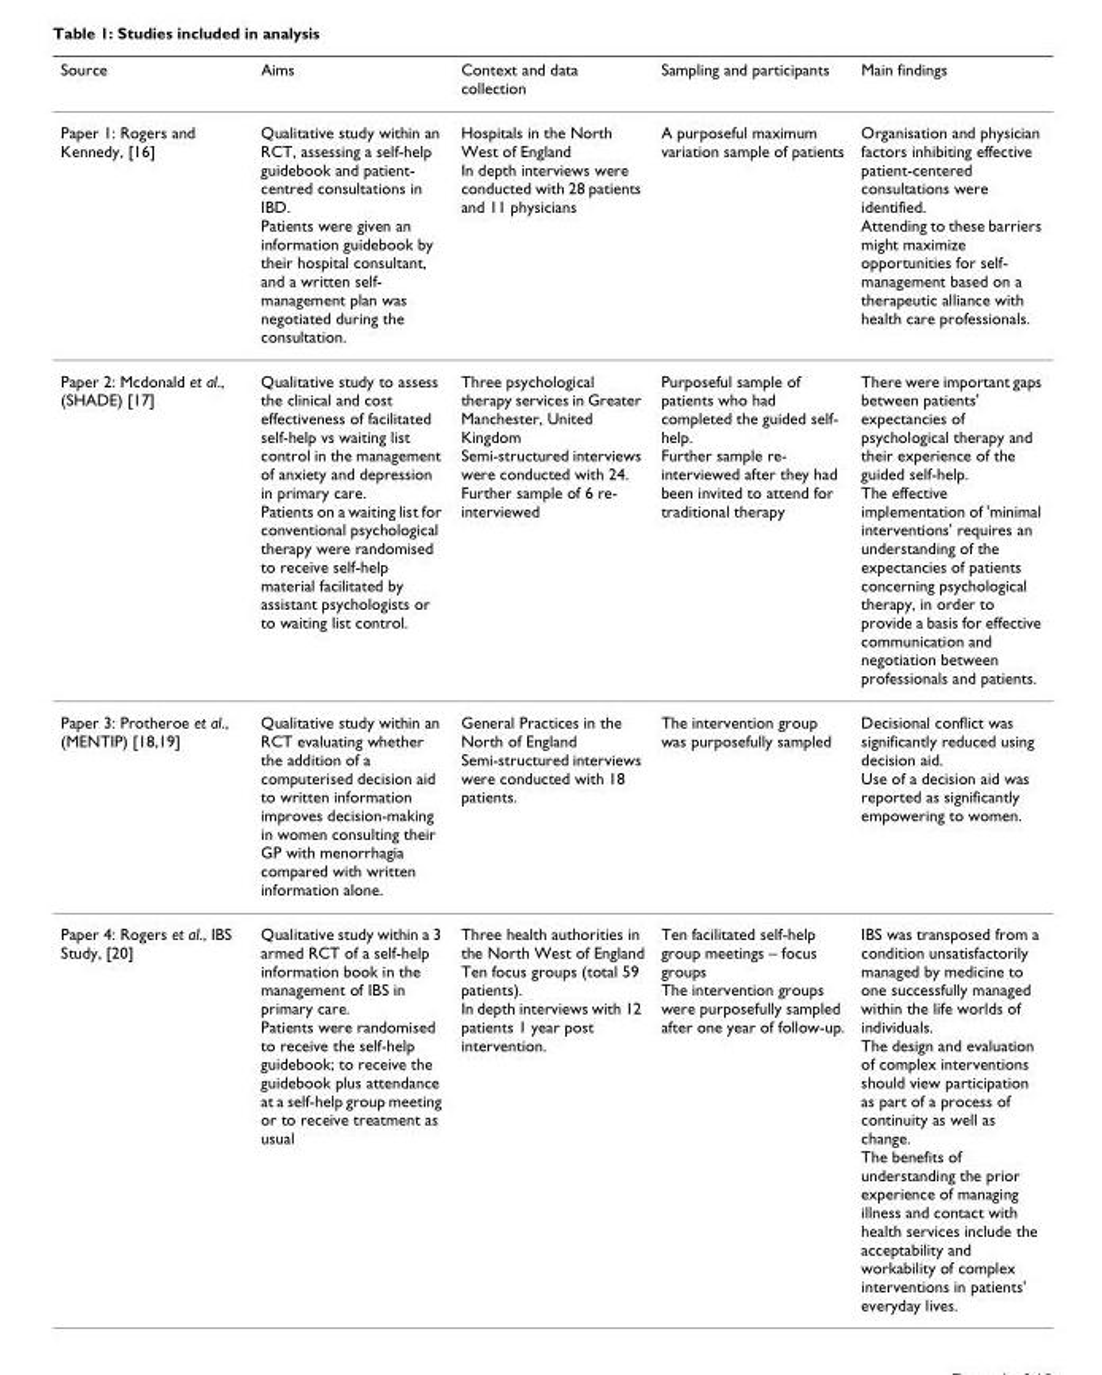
<table><thead><tr><td>Source</td><td>Aims</td><td>Context and data collection</td><td>Sampling and participants</td><td>Main findings</td></tr></thead><tbody><tr><td>Paper 1: Rogers and Kennedy, [16]</td><td>Qualitative study within an RCT, assessing a self-help guidebook and patient- centred consultations in IBD. Patients were given an information guidebook by their hospital consultant, and a written self- management plan was negotiated during the consultation.</td><td>Hospitals in the North West of England In depth interviews were conducted with 28 patients and 11 physicians</td><td>A purposeful maximum variation sample of patients</td><td>Organisation and physician factors inhibiting effective patient-centered consultations were identified. Attending to these barriers might maximize opportunities for self- management based on a therapeutic alliance with health care professionals.</td></tr><tr><td>Paper 2: Mcdonald et al., (SHADE) [17]</td><td>Qualitative study to assess the clinical and cost effectiveness of facilitated self-help vs waiting list control in the management of anxiety and depression in primary care. Patients on a waiting list for conventional psychological therapy were randomised to receive self-help material facilitated by assistant psychologists or to waiting list control.</td><td>Three psychological therapy services in Greater Manchester, United Kingdom Semi-structured interviews were conducted with 24. Further sample of 6 re- interviewed</td><td>Purposeful sample of patients who had completed the guided self- help. Further sample re- interviewed after they had been invited to attend for traditional therapy</td><td>There were important gaps between patients&#x27; expectancies of psychological therapy and their experience of the guided self-help. The effective implementation of &#x27;minimal interventions&#x27; requires an understanding of the expectancies of patients concerning psychological therapy, in order to provide a basis for effective communication and negotiation between professionals and patients.</td></tr><tr><td>Paper 3: Protheroe et al., (MENTIP) [18,19]</td><td>Qualitative study within an RCT evaluating whether the addition of a computerised decision aid to written information improves decision-making in women consulting their GP with menorrhagia compared with written information alone.</td><td>General Practices in the North of England Semi-structured interviews were conducted with 18 patients.</td><td>The intervention group was purposefully sampled</td><td>Decisional conflict was significantly reduced using decision aid. Use of a decision aid was reported as significantly empowering to women.</td></tr><tr><td>Paper 4: Rogers et al., IBS Study, [20]</td><td>Qualitative study within a 3 armed RCT of a self-help information book in the management of IBS in primary care. Patients were randomised to receive the self-help guidebook; to receive the guidebook plus attendance at a self-help group meeting or to receive treatment as usual</td><td>Three health authorities in the North West of England Ten focus groups (total 59 patients). In depth interviews with 12 patients 1 year post intervention.</td><td>Ten facilitated self-help group meetings – focus groups The intervention groups were purposefully sampled after one year of follow-up.</td><td>IBS was transposed from a condition unsatisfactorily managed by medicine to one successfully managed within the life worlds of individuals. The design and evaluation of complex interventions should view participation as part of a process of continuity as well as change. The benefits of understanding the prior experience of managing illness and contact with health services include the acceptability and workability of complex interventions in patients&#x27; everyday lives.</td></tr></tbody></table>